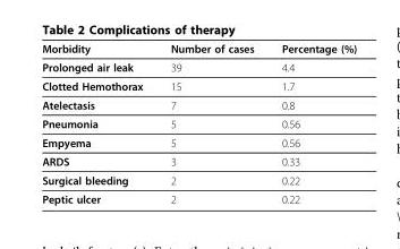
<table><thead><tr><td>Morbidity</td><td>Number of cases</td><td>Percentage (%)</td></tr></thead><tbody><tr><td>Prolonged air leak</td><td>39</td><td>4.4</td></tr><tr><td>Clotted Hemothorax</td><td>15</td><td>1.7</td></tr><tr><td>Atelectasis</td><td>7</td><td>0.8</td></tr><tr><td>Pneumonia</td><td>5</td><td>0.56</td></tr><tr><td>Empyema</td><td>5</td><td>0.56</td></tr><tr><td>ARDS</td><td>3</td><td>0.33</td></tr><tr><td>Surgical bleeding</td><td>2</td><td>0.22</td></tr><tr><td>Peptic ulcer</td><td>2</td><td>0.22</td></tr></tbody></table>